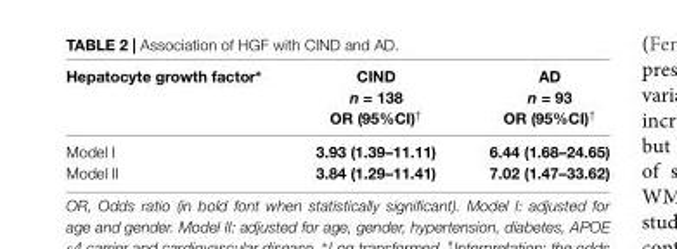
<table><thead><tr><td>Hepatocyte growth factor∗</td><td>CIND n = 138 OR (95%CI)<sup>†</sup></td><td>AD n = 93 OR (95%CI)<sup>†</sup></td></tr></thead><tbody><tr><td>Model I</td><td>3.93 (1.39–11.11)</td><td>6.44 (1.68–24.65)</td></tr><tr><td>Model II</td><td>3.84 (1.29–11.41)</td><td>7.02 (1.47–33.62)</td></tr></tbody></table>